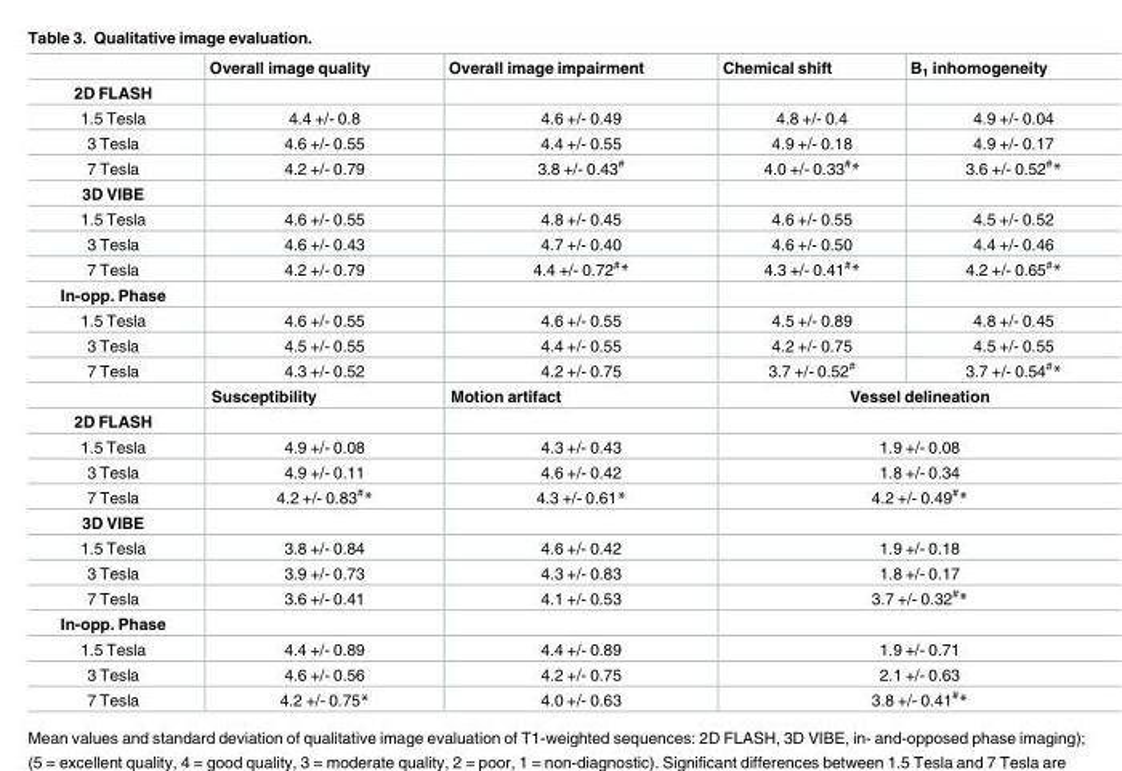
<table><thead><tr><td></td><td>Overall image quality</td><td>Overall image impairment</td><td>Chemical shift</td><td>B<sub>1</sub> inhomogeneity</td></tr></thead><tbody><tr><td colspan="5">2D FLASH</td></tr><tr><td>1.5 Tesla</td><td>4.4 +/- 0.8</td><td>4.6 +/- 0.49</td><td>4.8 +/- 0.4</td><td>4.9 +/- 0.04</td></tr><tr><td>3 Tesla</td><td>4.6 +/- 0.55</td><td>4.4 +/- 0.55</td><td>4.9 +/- 0.18</td><td>4.9 +/- 0.17</td></tr><tr><td>7 Tesla</td><td>4.2 +/- 0.79</td><td>3.8 +/- 0.43<sup>#</sup></td><td>4.0 +/- 0.33<sup>#</sup>*</td><td>3.6 +/- 0.52<sup>#</sup>*</td></tr><tr><td colspan="5">3D VIBE</td></tr><tr><td>1.5 Tesla</td><td>4.6 +/- 0.55</td><td>4.8 +/- 0.45</td><td>4.6 +/- 0.55</td><td>4.5 +/- 0.52</td></tr><tr><td>3 Tesla</td><td>4.6 +/- 0.43</td><td>4.7 +/- 0.40</td><td>4.6 +/- 0.50</td><td>4.4 +/- 0.46</td></tr><tr><td>7 Tesla</td><td>4.2 +/- 0.79</td><td>4.4 +/- 0.72<sup>#</sup>*</td><td>4.3 +/- 0.41<sup>#</sup>*</td><td>4.2 +/- 0.65<sup>#</sup>*</td></tr><tr><td colspan="5">In-opp. Phase</td></tr><tr><td>1.5 Tesla</td><td>4.6 +/- 0.55</td><td>4.6 +/- 0.55</td><td>4.5 +/- 0.89</td><td>4.8 +/- 0.45</td></tr><tr><td>3 Tesla</td><td>4.5 +/- 0.55</td><td>4.4 +/- 0.55</td><td>4.2 +/- 0.75</td><td>4.5 +/- 0.55</td></tr><tr><td rowspan="2">7 Tesla</td><td>4.3 +/- 0.52</td><td>4.2 +/- 0.75</td><td>3.7 +/- 0.52<sup>#</sup></td><td>3.7 +/- 0.54<sup>#</sup>*</td></tr><tr><td>Susceptibility</td><td>Motion artifact</td><td colspan="2">Vessel delineation</td></tr><tr><td colspan="5">2D FLASH</td></tr><tr><td>1.5 Tesla</td><td>4.9 +/- 0.08</td><td>4.3 +/- 0.43</td><td colspan="2">1.9 +/- 0.08</td></tr><tr><td>3 Tesla</td><td>4.9 +/- 0.11</td><td>4.6 +/- 0.42</td><td colspan="2">1.8 +/- 0.34</td></tr><tr><td>7 Tesla</td><td>4.2 +/- 0.83<sup>#</sup>*</td><td>4.3 +/- 0.61*</td><td colspan="2">4.2 +/- 0.49<sup>#</sup>*</td></tr><tr><td colspan="5">3D VIBE</td></tr><tr><td>1.5 Tesla</td><td>3.8 +/- 0.84</td><td>4.6 +/- 0.42</td><td colspan="2">1.9 +/- 0.18</td></tr><tr><td>3 Tesla</td><td>3.9 +/- 0.73</td><td>4.3 +/- 0.83</td><td colspan="2">1.8 +/- 0.17</td></tr><tr><td>7 Tesla</td><td>3.6 +/- 0.41</td><td>4.1 +/- 0.53</td><td colspan="2">3.7 +/- 0.32<sup>#</sup>*</td></tr><tr><td colspan="5">In-opp. Phase</td></tr><tr><td>1.5 Tesla</td><td>4.4 +/- 0.89</td><td>4.4 +/- 0.89</td><td colspan="2">1.9 +/- 0.71</td></tr><tr><td>3 Tesla</td><td>4.6 +/- 0.56</td><td>4.2 +/- 0.75</td><td colspan="2">2.1 +/- 0.63</td></tr><tr><td>7 Tesla</td><td>4.2 +/- 0.75*</td><td>4.0 +/- 0.63</td><td colspan="2">3.8 +/- 0.41<sup>#</sup>*</td></tr></tbody></table>